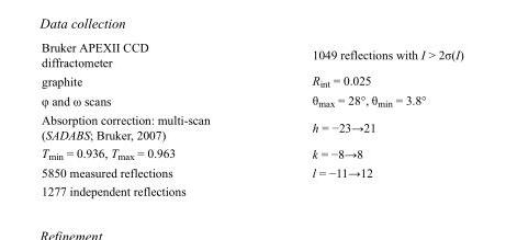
<table><tbody><tr><td>Bruker APEXII CCD diffractometer</td><td>1049 reflections with I &gt; 2σ(I)</td></tr><tr><td>graphite</td><td>R<sub>int</sub> = 0.025</td></tr><tr><td>φ and ω scans</td><td>θ<sub>max</sub> = 28°, θ<sub>min</sub> = 3.8°</td></tr><tr><td>Absorption correction: multi-scan (SADABS; Bruker, 2007)</td><td>h = −23→21</td></tr><tr><td>T<sub>min</sub> = 0.936, T<sub>max</sub> = 0.963</td><td>k = −8→8</td></tr><tr><td>5850 measured reflections</td><td>l = −11→12</td></tr><tr><td>1277 independent reflections</td><td></td></tr></tbody></table>